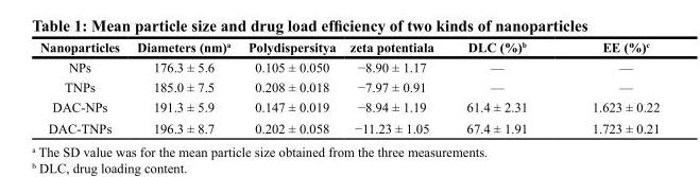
<table><thead><tr><td>Nanoparticles</td><td>Diameters (nm)<sup>a</sup></td><td>Polydispersitya</td><td>zeta potentiala</td><td>DLC (%)<sup>b</sup></td><td>EE (%)<sup>c</sup></td></tr></thead><tbody><tr><td>NPs</td><td>176.3 ± 5.6</td><td>0.105 ± 0.050</td><td>−8.90 ± 1.17</td><td>—</td><td>—</td></tr><tr><td>TNPs</td><td>185.0 ± 7.5</td><td>0.208 ± 0.018</td><td>−7.97 ± 0.91</td><td>—</td><td>—</td></tr><tr><td>DAC-NPs</td><td>191.3 ± 5.9</td><td>0.147 ± 0.019</td><td>−8.94 ± 1.19</td><td>61.4 ± 2.31</td><td>1.623 ± 0.22</td></tr><tr><td>DAC-TNPs</td><td>196.3 ± 8.7</td><td>0.202 ± 0.058</td><td>−11.23 ± 1.05</td><td>67.4 ± 1.91</td><td>1.723 ± 0.21</td></tr></tbody></table>